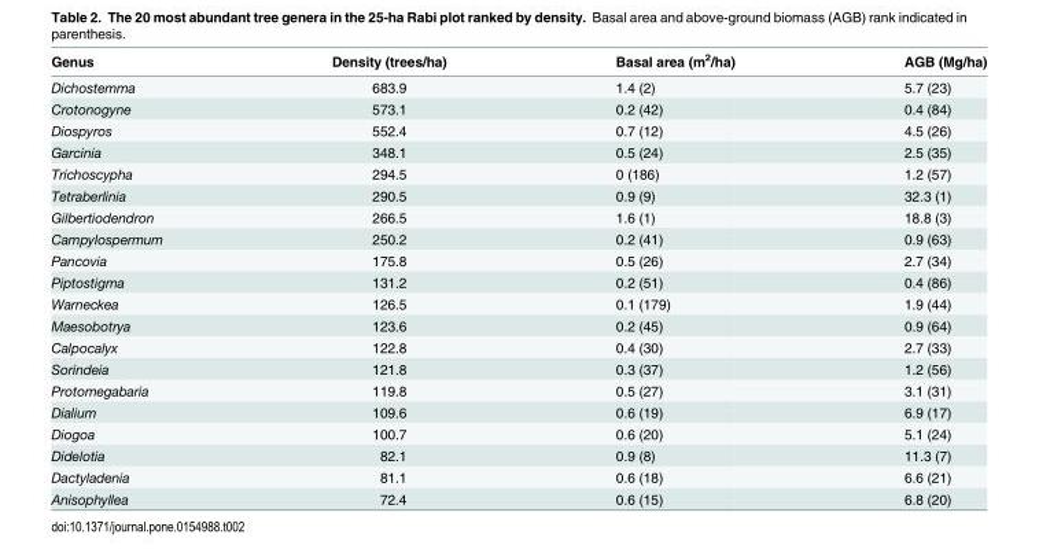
<table><thead><tr><td>Genus</td><td>Density (trees/ha)</td><td>Basal area (m<sup>2</sup>/ha)</td><td>AGB (Mg/ha)</td></tr></thead><tbody><tr><td>Dichostemma</td><td>683.9</td><td>1.4 (2)</td><td>5.7 (23)</td></tr><tr><td>Crotonogyne</td><td>573.1</td><td>0.2 (42)</td><td>0.4 (84)</td></tr><tr><td>Diospyros</td><td>552.4</td><td>0.7 (12)</td><td>4.5 (26)</td></tr><tr><td>Garcinia</td><td>348.1</td><td>0.5 (24)</td><td>2.5 (35)</td></tr><tr><td>Trichoscypha</td><td>294.5</td><td>0 (186)</td><td>1.2 (57)</td></tr><tr><td>Tetraberlinia</td><td>290.5</td><td>0.9 (9)</td><td>32.3 (1)</td></tr><tr><td>Gilbertiodendron</td><td>266.5</td><td>1.6 (1)</td><td>18.8 (3)</td></tr><tr><td>Campylospermum</td><td>250.2</td><td>0.2 (41)</td><td>0.9 (63)</td></tr><tr><td>Pancovia</td><td>175.8</td><td>0.5 (26)</td><td>2.7 (34)</td></tr><tr><td>Piptostigma</td><td>131.2</td><td>0.2 (51)</td><td>0.4 (86)</td></tr><tr><td>Warneckea</td><td>126.5</td><td>0.1 (179)</td><td>1.9 (44)</td></tr><tr><td>Maesobotrya</td><td>123.6</td><td>0.2 (45)</td><td>0.9 (64)</td></tr><tr><td>Calpocalyx</td><td>122.8</td><td>0.4 (30)</td><td>2.7 (33)</td></tr><tr><td>Sorindeia</td><td>121.8</td><td>0.3 (37)</td><td>1.2 (56)</td></tr><tr><td>Protomegabaria</td><td>119.8</td><td>0.5 (27)</td><td>3.1 (31)</td></tr><tr><td>Dialium</td><td>109.6</td><td>0.6 (19)</td><td>6.9 (17)</td></tr><tr><td>Diogoa</td><td>100.7</td><td>0.6 (20)</td><td>5.1 (24)</td></tr><tr><td>Didelotia</td><td>82.1</td><td>0.9 (8)</td><td>11.3 (7)</td></tr><tr><td>Dactyladenia</td><td>81.1</td><td>0.6 (18)</td><td>6.6 (21)</td></tr><tr><td>Anisophyllea</td><td>72.4</td><td>0.6 (15)</td><td>6.8 (20)</td></tr></tbody></table>